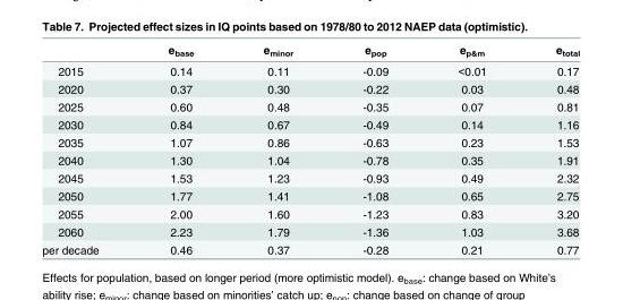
<table><thead><tr><td></td><td>e<sub>base</sub></td><td>e<sub>minor</sub></td><td>e<sub>pop</sub></td><td>e<sub>p&amp;m</sub></td><td>e<sub>total</sub></td></tr></thead><tbody><tr><td>2015</td><td>0.14</td><td>0.11</td><td>-0.09</td><td>&lt;0.01</td><td>0.17</td></tr><tr><td>2020</td><td>0.37</td><td>0.30</td><td>-0.22</td><td>0.03</td><td>0.48</td></tr><tr><td>2025</td><td>0.60</td><td>0.48</td><td>-0.35</td><td>0.07</td><td>0.81</td></tr><tr><td>2030</td><td>0.84</td><td>0.67</td><td>-0.49</td><td>0.14</td><td>1.16</td></tr><tr><td>2035</td><td>1.07</td><td>0.86</td><td>-0.63</td><td>0.23</td><td>1.53</td></tr><tr><td>2040</td><td>1.30</td><td>1.04</td><td>-0.78</td><td>0.35</td><td>1.91</td></tr><tr><td>2045</td><td>1.53</td><td>1.23</td><td>-0.93</td><td>0.49</td><td>2.32</td></tr><tr><td>2050</td><td>1.77</td><td>1.41</td><td>-1.08</td><td>0.65</td><td>2.75</td></tr><tr><td>2055</td><td>2.00</td><td>1.60</td><td>-1.23</td><td>0.83</td><td>3.20</td></tr><tr><td>2060</td><td>2.23</td><td>1.79</td><td>-1.36</td><td>1.03</td><td>3.68</td></tr><tr><td>per decade</td><td>0.46</td><td>0.37</td><td>-0.28</td><td>0.21</td><td>0.77</td></tr></tbody></table>